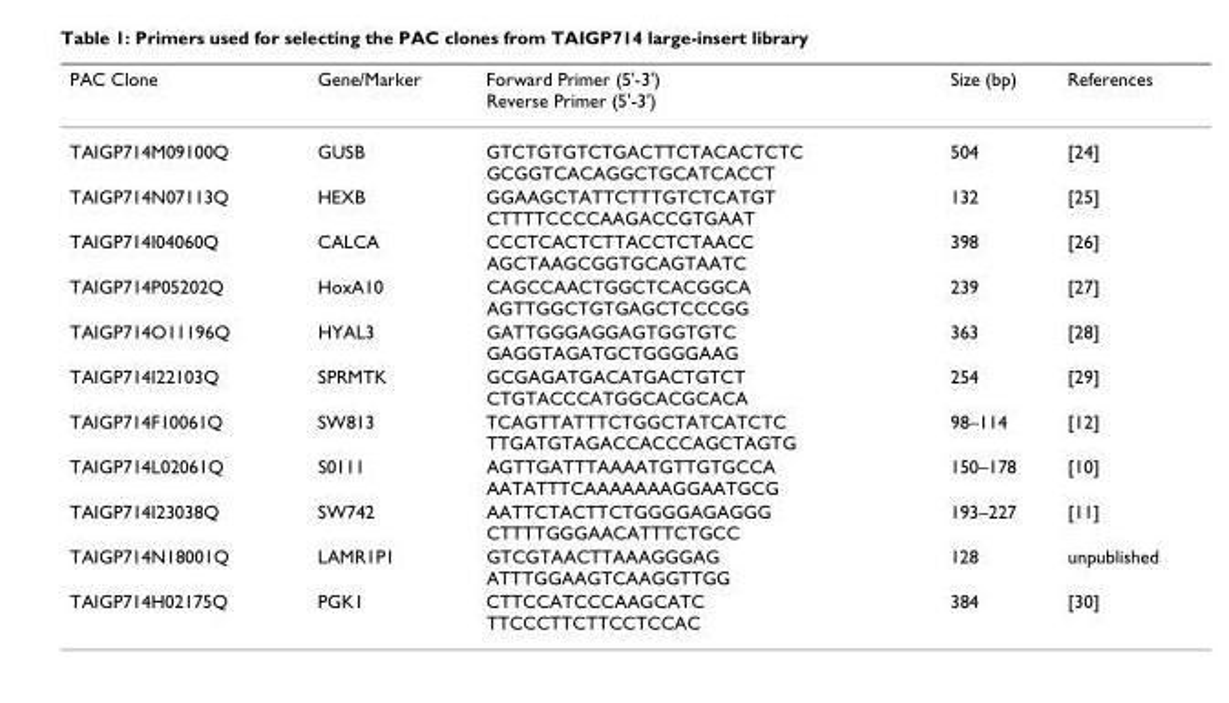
<table><thead><tr><td>PAC Clone</td><td>Gene/Marker</td><td>Forward Primer (5&#x27;-3&#x27;) Reverse Primer (5&#x27;-3&#x27;)</td><td>Size (bp)</td><td>References</td></tr></thead><tbody><tr><td>TAIGP714M09100Q</td><td>GUSB</td><td>GTCTGTGTCTGACTTCTACACTCTC GCGGTCACAGGCTGCATCACCT</td><td>504</td><td>[24]</td></tr><tr><td>TAIGP714N07113Q</td><td>HEXB</td><td>GGAAGCTATTCTTTGTCTCATGT CTTTTCCCCAAGACCGTGAAT</td><td>132</td><td>[25]</td></tr><tr><td>TAIGP714I04060Q</td><td>CALCA</td><td>CCCTCACTCTTACCTCTAACC AGCTAAGCGGTGCAGTAATC</td><td>398</td><td>[26]</td></tr><tr><td>TAIGP714P05202Q</td><td>HoxA10</td><td>CAGCCAACTGGCTCACGGCA AGTTGGCTGTGAGCTCCCGG</td><td>239</td><td>[27]</td></tr><tr><td>TAIGP714O11196Q</td><td>HYAL3</td><td>GATTGGGAGGAGTGGTGTC GAGGTAGATGCTGGGGAAG</td><td>363</td><td>[28]</td></tr><tr><td>TAIGP714I22103Q</td><td>SPRMTK</td><td>GCGAGATGACATGACTGTCT CTGTACCCATGGCACGCACA</td><td>254</td><td>[29]</td></tr><tr><td>TAIGP714F10061Q</td><td>SW813</td><td>TCAGTTATTTCTGGCTATCATCTC TTGATGTAGACCACCCAGCTAGTG</td><td>98–114</td><td>[12]</td></tr><tr><td>TAIGP714L02061Q</td><td>S0111</td><td>AGTTGATTTAAAATGTTGTGCCA AATATTTCAAAAAAAGGAATGCG</td><td>150–178</td><td>[10]</td></tr><tr><td>TAIGP714I23038Q</td><td>SW742</td><td>AATTCTACTTCTGGGGAGAGGG CTTTTGGGAACATTTCTGCC</td><td>193–227</td><td>[11]</td></tr><tr><td>TAIGP714N18001Q</td><td>LAMR1P1</td><td>GTCGTAACTTAAAGGGAG ATTTGGAAGTCAAGGTTGG</td><td>128</td><td>unpublished</td></tr><tr><td>TAIGP714H02175Q</td><td>PGK1</td><td>CTTCCATCCCAAGCATC TTCCCTTCTTCCTCCAC</td><td>384</td><td>[30]</td></tr></tbody></table>